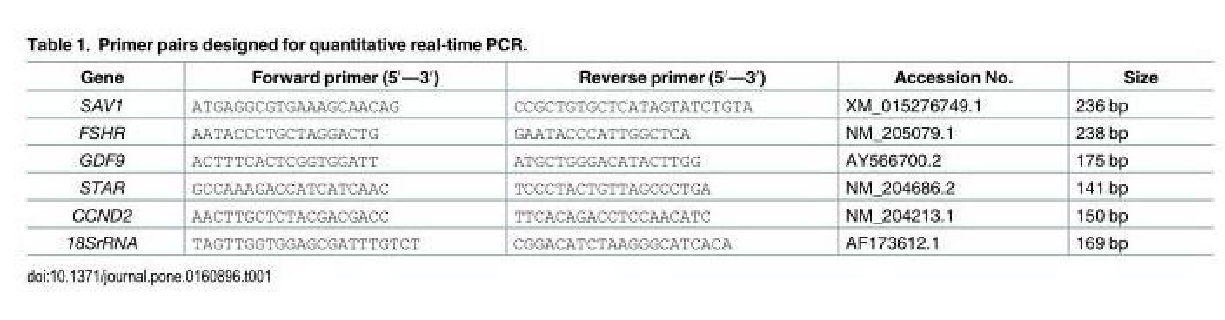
<table><thead><tr><td>Gene</td><td>Forward primer (5′—3′)</td><td>Reverse primer (5′—3′)</td><td>Accession No.</td><td>Size</td></tr></thead><tbody><tr><td>SAV1</td><td>ATGAGGCGTGAAAGCAACAG</td><td>CCGCTGTGCTCATAGTATCTGTA</td><td>XM_015276749.1</td><td>236 bp</td></tr><tr><td>FSHR</td><td>AATACCCTGCTAGGACTG</td><td>GAATACCCATTGGCTCA</td><td>NM_205079.1</td><td>238 bp</td></tr><tr><td>GDF9</td><td>ACTTTCACTCGGTGGATT</td><td>ATGCTGGGACATACTTGG</td><td>AY566700.2</td><td>175 bp</td></tr><tr><td>STAR</td><td>GCCAAAGACCATCATCAAC</td><td>TCCCTACTGTTAGCCCTGA</td><td>NM_204686.2</td><td>141 bp</td></tr><tr><td>CCND2</td><td>AACTTGCTCTACGACGACC</td><td>TTCACAGACCTCCAACATC</td><td>NM_204213.1</td><td>150 bp</td></tr><tr><td>18SrRNA</td><td>TAGTTGGTGGAGCGATTTGTCT</td><td>CGGACATCTAAGGGCATCACA</td><td>AF173612.1</td><td>169 bp</td></tr></tbody></table>